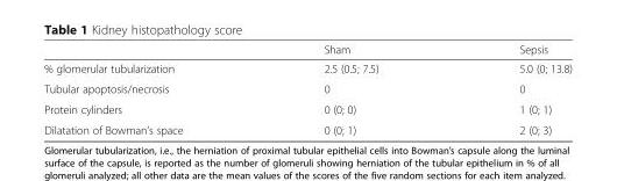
<table><thead><tr><td></td><td>Sham</td><td>Sepsis</td></tr></thead><tbody><tr><td>% glomerular tubularization</td><td>2.5 (0.5; 7.5)</td><td>5.0 (0; 13.8)</td></tr><tr><td>Tubular apoptosis/necrosis</td><td>0</td><td>0</td></tr><tr><td>Protein cylinders</td><td>0 (0; 0)</td><td>1 (0; 1)</td></tr><tr><td>Dilatation of Bowman’s space</td><td>0 (0; 1)</td><td>2 (0; 3)</td></tr></tbody></table>